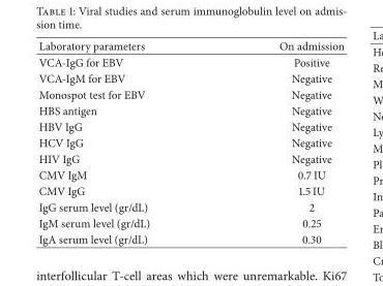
<table><thead><tr><td>Laboratory parameters</td><td>On admission</td></tr></thead><tbody><tr><td>VCA-IgG for EBV</td><td>Positive</td></tr><tr><td>VCA-IgM for EBV</td><td>Negative</td></tr><tr><td>Monospot test for EBV</td><td>Negative</td></tr><tr><td>HBS antigen</td><td>Negative</td></tr><tr><td>HBV IgG</td><td>Negative</td></tr><tr><td>HCV IgG</td><td>Negative</td></tr><tr><td>HIV IgG</td><td>Negative</td></tr><tr><td>CMV IgM</td><td>0.7 IU</td></tr><tr><td>CMV IgG</td><td>1.5 IU</td></tr><tr><td>IgG serum level (gr/dL)</td><td>2</td></tr><tr><td>IgM serum level (gr/dL)</td><td>0.25</td></tr><tr><td>IgA serum level (gr/dL)</td><td>0.30</td></tr></tbody></table>